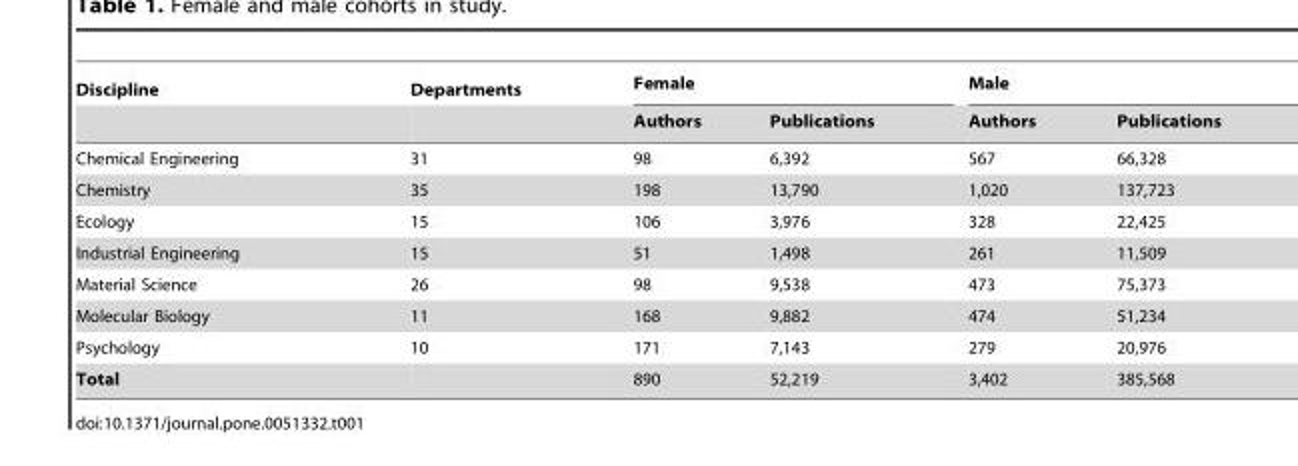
<table><thead><tr><td rowspan="2">Discipline</td><td rowspan="2">Departments</td><td colspan="2">Female</td><td colspan="2">Male</td></tr><tr><td>Authors</td><td>Publications</td><td>Authors</td><td>Publications</td></tr></thead><tbody><tr><td>Chemical Engineering</td><td>31</td><td>98</td><td>6,392</td><td>567</td><td>66,328</td></tr><tr><td>Chemistry</td><td>35</td><td>198</td><td>13,790</td><td>1,020</td><td>137,723</td></tr><tr><td>Ecology</td><td>15</td><td>106</td><td>3,976</td><td>328</td><td>22,425</td></tr><tr><td>Industrial Engineering</td><td>15</td><td>51</td><td>1,498</td><td>261</td><td>11,509</td></tr><tr><td>Material Science</td><td>26</td><td>98</td><td>9,538</td><td>473</td><td>75,373</td></tr><tr><td>Molecular Biology</td><td>11</td><td>168</td><td>9,882</td><td>474</td><td>51,234</td></tr><tr><td>Psychology</td><td>10</td><td>171</td><td>7,143</td><td>279</td><td>20,976</td></tr><tr><td>Total</td><td></td><td>890</td><td>52,219</td><td>3,402</td><td>385,568</td></tr></tbody></table>